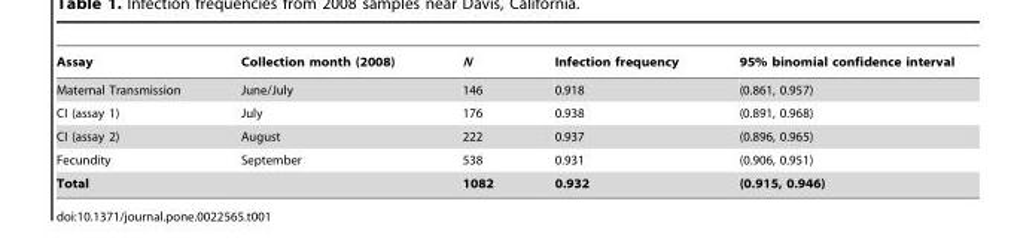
<table><thead><tr><td>Assay</td><td>Collection month (2008)</td><td>N</td><td>Infection frequency</td><td>95% binomial confidence interval</td></tr></thead><tbody><tr><td>Maternal Transmission</td><td>June/July</td><td>146</td><td>0.918</td><td>(0.861, 0.957)</td></tr><tr><td>CI (assay 1)</td><td>July</td><td>176</td><td>0.938</td><td>(0.891, 0.968)</td></tr><tr><td>CI (assay 2)</td><td>August</td><td>222</td><td>0.937</td><td>(0.896, 0.965)</td></tr><tr><td>Fecundity</td><td>September</td><td>538</td><td>0.931</td><td>(0.906, 0.951)</td></tr><tr><td>Total</td><td></td><td>1082</td><td>0.932</td><td>(0.915, 0.946)</td></tr></tbody></table>